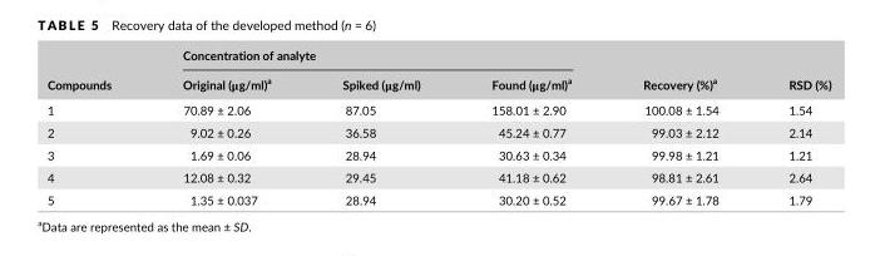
<table><thead><tr><td rowspan="2">Compounds</td><td colspan="3">Concentration of analyte</td><td rowspan="2">Recovery (%)<sup>a</sup></td><td rowspan="2">RSD (%)</td></tr><tr><td>Original (μg/ml)<sup>a</sup></td><td>Spiked (μg/ml)</td><td>Found (μg/ml)<sup>a</sup></td></tr></thead><tbody><tr><td>1</td><td>70.89 ± 2.06</td><td>87.05</td><td>158.01 ± 2.90</td><td>100.08 ± 1.54</td><td>1.54</td></tr><tr><td>2</td><td>9.02 ± 0.26</td><td>36.58</td><td>45.24 ± 0.77</td><td>99.03 ± 2.12</td><td>2.14</td></tr><tr><td>3</td><td>1.69 ± 0.06</td><td>28.94</td><td>30.63 ± 0.34</td><td>99.98 ± 1.21</td><td>1.21</td></tr><tr><td>4</td><td>12.08 ± 0.32</td><td>29.45</td><td>41.18 ± 0.62</td><td>98.81 ± 2.61</td><td>2.64</td></tr><tr><td>5</td><td>1.35 ± 0.037</td><td>28.94</td><td>30.20 ± 0.52</td><td>99.67 ± 1.78</td><td>1.79</td></tr></tbody></table>